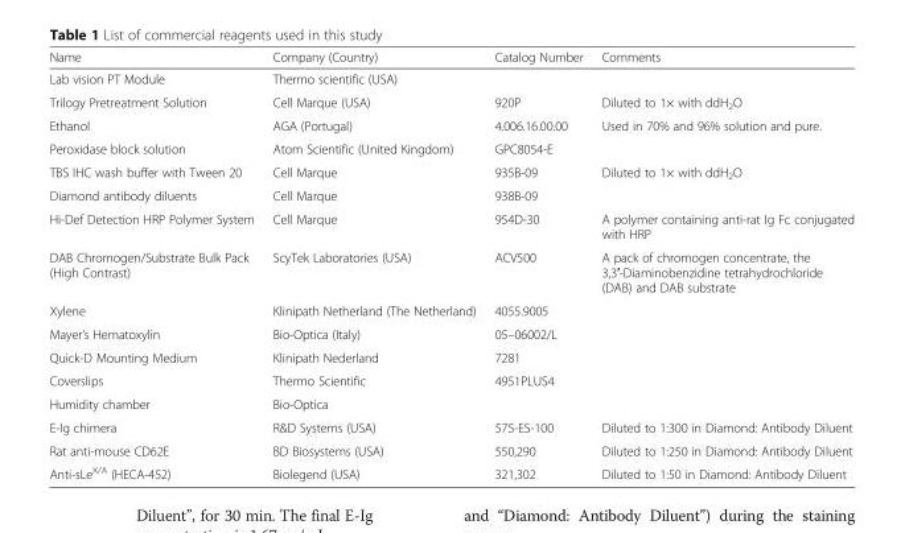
<table><thead><tr><td>Name</td><td>Company (Country)</td><td>Catalog Number</td><td>Comments</td></tr></thead><tbody><tr><td>Lab vision PT Module</td><td>Thermo scientific (USA)</td><td></td><td></td></tr><tr><td>Trilogy Pretreatment Solution</td><td>Cell Marque (USA)</td><td>920P</td><td>Diluted to 1× with ddH<sub>2</sub>O</td></tr><tr><td>Ethanol</td><td>AGA (Portugal)</td><td>4.006.16.00.00</td><td>Used in 70% and 96% solution and pure.</td></tr><tr><td>Peroxidase block solution</td><td>Atom Scientific (United Kingdom)</td><td>GPC8054-E</td><td></td></tr><tr><td>TBS IHC wash buffer with Tween 20</td><td>Cell Marque</td><td>935B-09</td><td>Diluted to 1× with ddH<sub>2</sub>O</td></tr><tr><td>Diamond antibody diluents</td><td>Cell Marque</td><td>938B-09</td><td></td></tr><tr><td>Hi-Def Detection HRP Polymer System</td><td>Cell Marque</td><td>954D-30</td><td>A polymer containing anti-rat Ig Fc conjugated with HRP</td></tr><tr><td>DAB Chromogen/Substrate Bulk Pack (High Contrast)</td><td>ScyTek Laboratories (USA)</td><td>ACV500</td><td>A pack of chromogen concentrate, the 3,3′-Diaminobenzidine tetrahydrochloride (DAB) and DAB substrate</td></tr><tr><td>Xylene</td><td>Klinipath Netherland (The Netherland)</td><td>4055.9005</td><td></td></tr><tr><td>Mayer’s Hematoxylin</td><td>Bio-Optica (Italy)</td><td>05–06002/L</td><td></td></tr><tr><td>Quick-D Mounting Medium</td><td>Klinipath Nederland</td><td>7281</td><td></td></tr><tr><td>Coverslips</td><td>Thermo Scientific</td><td>4951PLUS4</td><td></td></tr><tr><td>Humidity chamber</td><td>Bio-Optica</td><td></td><td></td></tr><tr><td>E-Ig chimera</td><td>R&amp;D Systems (USA)</td><td>575-ES-100</td><td>Diluted to 1:300 in Diamond: Antibody Diluent</td></tr><tr><td>Rat anti-mouse CD62E</td><td>BD Biosystems (USA)</td><td>550,290</td><td>Diluted to 1:250 in Diamond: Antibody Diluent</td></tr><tr><td>Anti-sLe<sup>X/A</sup> (HECA-452)</td><td>Biolegend (USA)</td><td>321,302</td><td>Diluted to 1:50 in Diamond: Antibody Diluent</td></tr></tbody></table>